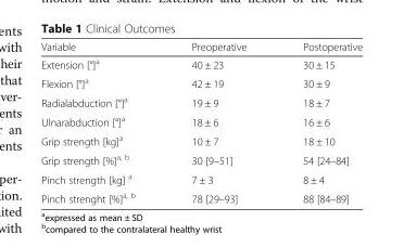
<table><thead><tr><td>Variable</td><td>Preoperative</td><td>Postoperative</td></tr></thead><tbody><tr><td>Extension [°]<sup>a</sup></td><td>40 ± 23</td><td>30 ± 15</td></tr><tr><td>Flexion [°]<sup>a</sup></td><td>42 ± 19</td><td>30 ± 9</td></tr><tr><td>Radialabduction [°]<sup>a</sup></td><td>19 ± 9</td><td>18 ± 7</td></tr><tr><td>Ulnarabduction [°]<sup>a</sup></td><td>18 ± 6</td><td>16 ± 6</td></tr><tr><td>Grip strength [kg]<sup>a</sup></td><td>10 ± 7</td><td>18 ± 10</td></tr><tr><td>Grip strength [%]<sup>a, b</sup></td><td>30 [9–51]</td><td>54 [24–84]</td></tr><tr><td>Pinch strength [kg] <sup>a</sup></td><td>7 ± 3</td><td>8 ± 4</td></tr><tr><td>Pinch strenght [%]<sup>a, b</sup></td><td>78 [29–93]</td><td>88 [84–89]</td></tr></tbody></table>